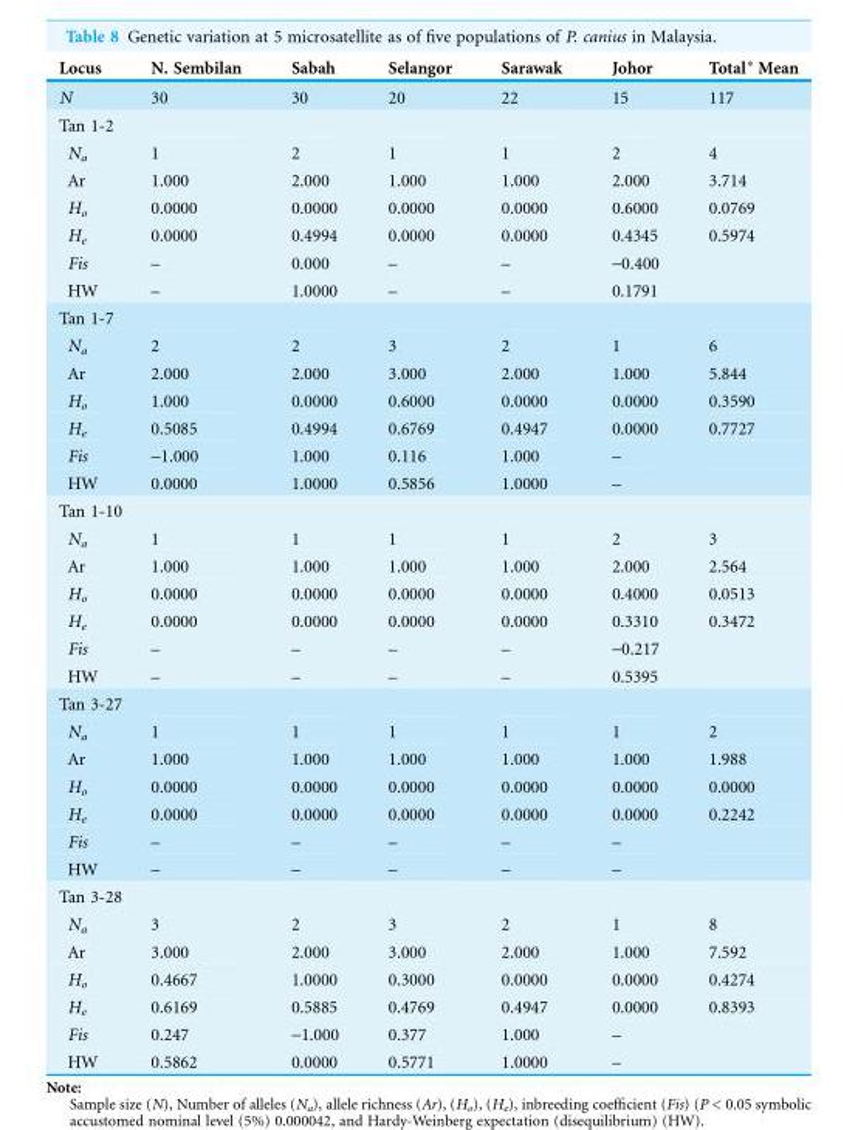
<table><thead><tr><td>Locus</td><td>N. Sembilan</td><td>Sabah</td><td>Selangor</td><td>Sarawak</td><td>Johor</td><td>Total* Mean</td></tr></thead><tbody><tr><td>N</td><td>30</td><td>30</td><td>20</td><td>22</td><td>15</td><td>117</td></tr><tr><td colspan="7">Tan 1-2</td></tr><tr><td>N<sub>a</sub></td><td>1</td><td>2</td><td>1</td><td>1</td><td>2</td><td>4</td></tr><tr><td>Ar</td><td>1.000</td><td>2.000</td><td>1.000</td><td>1.000</td><td>2.000</td><td>3.714</td></tr><tr><td>H<sub>o</sub></td><td>0.0000</td><td>0.0000</td><td>0.0000</td><td>0.0000</td><td>0.6000</td><td>0.0769</td></tr><tr><td>H<sub>e</sub></td><td>0.0000</td><td>0.4994</td><td>0.0000</td><td>0.0000</td><td>0.4345</td><td>0.5974</td></tr><tr><td>Fis</td><td>–</td><td>0.000</td><td>–</td><td>–</td><td>-0.400</td><td></td></tr><tr><td>HW</td><td>–</td><td>1.0000</td><td>–</td><td>–</td><td>0.1791</td><td></td></tr><tr><td colspan="7">Tan 1-7</td></tr><tr><td>N<sub>a</sub></td><td>2</td><td>2</td><td>3</td><td>2</td><td>1</td><td>6</td></tr><tr><td>Ar</td><td>2.000</td><td>2.000</td><td>3.000</td><td>2.000</td><td>1.000</td><td>5.844</td></tr><tr><td>H<sub>o</sub></td><td>1.000</td><td>0.0000</td><td>0.6000</td><td>0.0000</td><td>0.0000</td><td>0.3590</td></tr><tr><td>H<sub>e</sub></td><td>0.5085</td><td>0.4994</td><td>0.6769</td><td>0.4947</td><td>0.0000</td><td>0.7727</td></tr><tr><td>Fis</td><td>-1.000</td><td>1.000</td><td>0.116</td><td>1.000</td><td>–</td><td></td></tr><tr><td>HW</td><td>0.0000</td><td>1.0000</td><td>0.5856</td><td>1.0000</td><td>–</td><td></td></tr><tr><td colspan="7">Tan 1-10</td></tr><tr><td>N<sub>a</sub></td><td>1</td><td>1</td><td>1</td><td>1</td><td>2</td><td>3</td></tr><tr><td>Ar</td><td>1.000</td><td>1.000</td><td>1.000</td><td>1.000</td><td>2.000</td><td>2.564</td></tr><tr><td>H<sub>o</sub></td><td>0.0000</td><td>0.0000</td><td>0.0000</td><td>0.0000</td><td>0.4000</td><td>0.0513</td></tr><tr><td>H<sub>e</sub></td><td>0.0000</td><td>0.0000</td><td>0.0000</td><td>0.0000</td><td>0.3310</td><td>0.3472</td></tr><tr><td>Fis</td><td>–</td><td>–</td><td>–</td><td>–</td><td>-0.217</td><td></td></tr><tr><td>HW</td><td>–</td><td>–</td><td>–</td><td>–</td><td>0.5395</td><td></td></tr><tr><td colspan="7">Tan 3-27</td></tr><tr><td>N<sub>a</sub></td><td>1</td><td>1</td><td>1</td><td>1</td><td>1</td><td>2</td></tr><tr><td>Ar</td><td>1.000</td><td>1.000</td><td>1.000</td><td>1.000</td><td>1.000</td><td>1.988</td></tr><tr><td>H<sub>o</sub></td><td>0.0000</td><td>0.0000</td><td>0.0000</td><td>0.0000</td><td>0.0000</td><td>0.0000</td></tr><tr><td>H<sub>e</sub></td><td>0.0000</td><td>0.0000</td><td>0.0000</td><td>0.0000</td><td>0.0000</td><td>0.2242</td></tr><tr><td>Fis</td><td>–</td><td>–</td><td>–</td><td>–</td><td>–</td><td></td></tr><tr><td>HW</td><td>–</td><td>–</td><td>–</td><td>–</td><td>–</td><td></td></tr><tr><td colspan="7">Tan 3-28</td></tr><tr><td>N<sub>a</sub></td><td>3</td><td>2</td><td>3</td><td>2</td><td>1</td><td>8</td></tr><tr><td>Ar</td><td>3.000</td><td>2.000</td><td>3.000</td><td>2.000</td><td>1.000</td><td>7.592</td></tr><tr><td>H<sub>o</sub></td><td>0.4667</td><td>1.0000</td><td>0.3000</td><td>0.0000</td><td>0.0000</td><td>0.4274</td></tr><tr><td>H<sub>e</sub></td><td>0.6169</td><td>0.5885</td><td>0.4769</td><td>0.4947</td><td>0.0000</td><td>0.8393</td></tr><tr><td>Fis</td><td>0.247</td><td>-1.000</td><td>0.377</td><td>1.000</td><td>–</td><td></td></tr><tr><td>HW</td><td>0.5862</td><td>0.0000</td><td>0.5771</td><td>1.0000</td><td>–</td><td></td></tr></tbody></table>